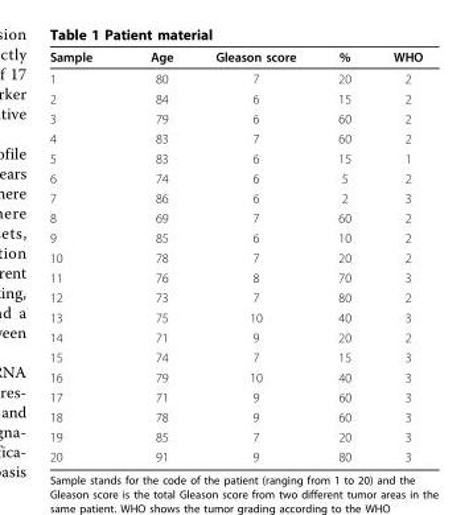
<table><thead><tr><td>Sample</td><td>Age</td><td>Gleason score</td><td>%</td><td>WHO</td></tr></thead><tbody><tr><td>1</td><td>80</td><td>7</td><td>20</td><td>2</td></tr><tr><td>2</td><td>84</td><td>6</td><td>15</td><td>2</td></tr><tr><td>3</td><td>79</td><td>6</td><td>60</td><td>2</td></tr><tr><td>4</td><td>83</td><td>7</td><td>60</td><td>2</td></tr><tr><td>5</td><td>83</td><td>6</td><td>15</td><td>1</td></tr><tr><td>6</td><td>74</td><td>6</td><td>5</td><td>2</td></tr><tr><td>7</td><td>86</td><td>6</td><td>2</td><td>3</td></tr><tr><td>8</td><td>69</td><td>7</td><td>60</td><td>2</td></tr><tr><td>9</td><td>85</td><td>6</td><td>10</td><td>2</td></tr><tr><td>10</td><td>78</td><td>7</td><td>20</td><td>2</td></tr><tr><td>11</td><td>76</td><td>8</td><td>70</td><td>3</td></tr><tr><td>12</td><td>73</td><td>7</td><td>80</td><td>2</td></tr><tr><td>13</td><td>75</td><td>10</td><td>40</td><td>3</td></tr><tr><td>14</td><td>71</td><td>9</td><td>20</td><td>2</td></tr><tr><td>15</td><td>74</td><td>7</td><td>15</td><td>3</td></tr><tr><td>16</td><td>79</td><td>10</td><td>40</td><td>3</td></tr><tr><td>17</td><td>71</td><td>9</td><td>60</td><td>3</td></tr><tr><td>18</td><td>78</td><td>9</td><td>60</td><td>3</td></tr><tr><td>19</td><td>85</td><td>7</td><td>20</td><td>3</td></tr><tr><td>20</td><td>91</td><td>9</td><td>80</td><td>3</td></tr></tbody></table>